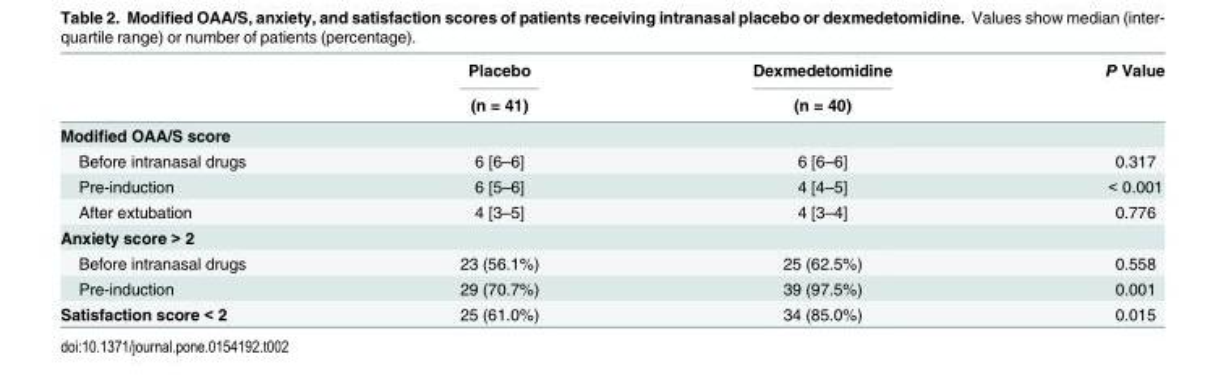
<table><thead><tr><td rowspan="2"></td><td rowspan="2">Placebo (n = 41)</td><td rowspan="2">Dexmedetomidine (n = 40)</td><td rowspan="2">P Value</td></tr><tr></tr></thead><tbody><tr><td colspan="4">Modified OAA/S score</td></tr><tr><td>Before intranasal drugs</td><td>6 [6–6]</td><td>6 [6–6]</td><td>0.317</td></tr><tr><td>Pre-induction</td><td>6 [5–6]</td><td>4 [4–5]</td><td>&lt; 0.001</td></tr><tr><td>After extubation</td><td>4 [3–5]</td><td>4 [3–4]</td><td>0.776</td></tr><tr><td colspan="4">Anxiety score &gt; 2</td></tr><tr><td>Before intranasal drugs</td><td>23 (56.1%)</td><td>25 (62.5%)</td><td>0.558</td></tr><tr><td>Pre-induction</td><td>29 (70.7%)</td><td>39 (97.5%)</td><td>0.001</td></tr><tr><td>Satisfaction score &lt; 2</td><td>25 (61.0%)</td><td>34 (85.0%)</td><td>0.015</td></tr></tbody></table>